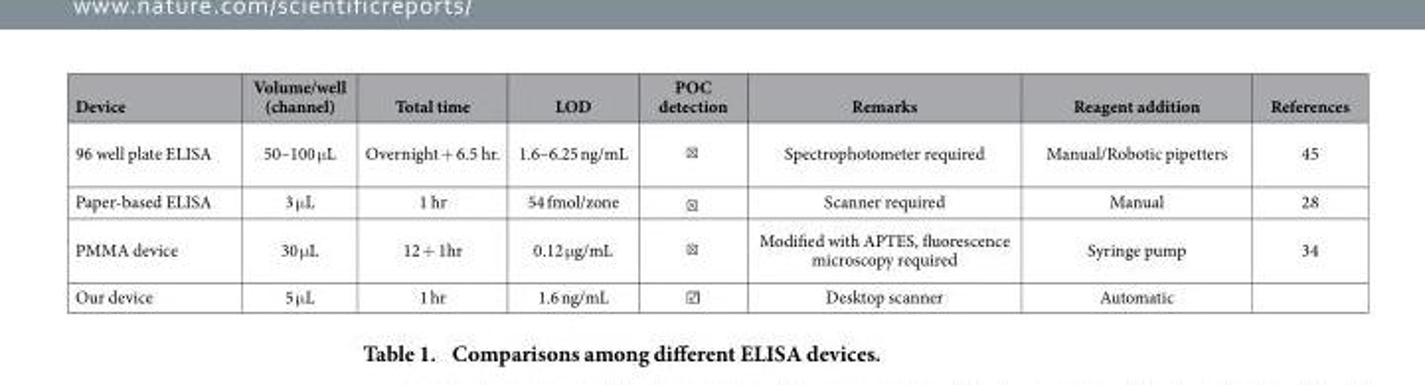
<table><thead><tr><td>Device</td><td>Volume/well (channel)</td><td>Total time</td><td>LOD</td><td>POC detection</td><td>Remarks</td><td>Reagent addition</td><td>References</td></tr></thead><tbody><tr><td>96 well plate ELISA</td><td>50–100 μ L</td><td>Overnight + 6.5 hr.</td><td>1.6–6.25 ng/mL</td><td>☒</td><td>Spectrophotometer required</td><td>Manual/Robotic pipetters</td><td>45</td></tr><tr><td>Paper-based ELISA</td><td>3 μ L</td><td>1 hr</td><td>54 fmol/zone</td><td>☒</td><td>Scanner required</td><td>Manual</td><td>28</td></tr><tr><td>PMMA device</td><td>30 μ L</td><td>12 + 1hr</td><td>0.12 μ g/mL</td><td>☒</td><td>Modified with APTES, fluorescence microscopy required</td><td>Syringe pump</td><td>34</td></tr><tr><td>Our device</td><td>5 μ L</td><td>1 hr</td><td>1.6 ng/mL</td><td>☑</td><td>Desktop scanner</td><td>Automatic</td><td></td></tr></tbody></table>